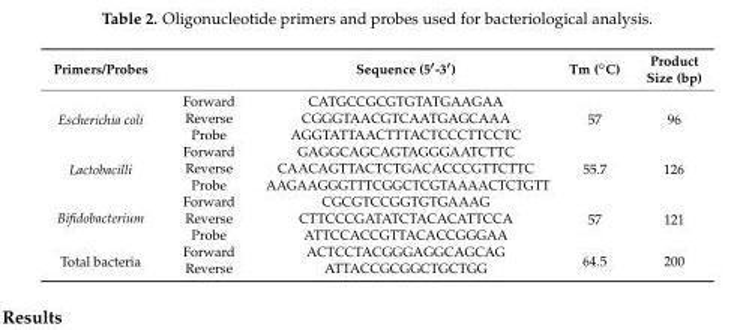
<table><thead><tr><td>Primers/Probes</td><td></td><td>Sequence (5′-3′)</td><td>Tm (◦C)</td><td>Product Size (bp)</td></tr></thead><tbody><tr><td rowspan="3">Escherichia coli</td><td>Forward</td><td>CATGCCGCGTGTATGAAGAA</td><td rowspan="3">57</td><td rowspan="3">96</td></tr><tr><td>Reverse</td><td>CGGGTAACGTCAATGAGCAAA</td></tr><tr><td>Probe</td><td>AGGTATTAACTTTACTCCCTTCCTC</td></tr><tr><td rowspan="3">Lactobacilli</td><td>Forward</td><td>GAGGCAGCAGTAGGGAATCTTC</td><td rowspan="3">55.7</td><td rowspan="3">126</td></tr><tr><td>Reverse</td><td>CAACAGTTACTCTGACACCCGTTCTTC</td></tr><tr><td>Probe</td><td>AAGAAGGGTTTCGGCTCGTAAAACTCTGTT</td></tr><tr><td rowspan="3">Bifidobacterium</td><td>Forward</td><td>CGCGTCCGGTGTGAAAG</td><td rowspan="3">57</td><td rowspan="3">121</td></tr><tr><td>Reverse</td><td>CTTCCCGATATCTACACATTCCA</td></tr><tr><td>Probe</td><td>ATTCCACCGTTACACCGGGAA</td></tr><tr><td rowspan="2">Total bacteria</td><td>Forward</td><td>ACTCCTACGGGAGGCAGCAG</td><td rowspan="2">64.5</td><td rowspan="2">200</td></tr><tr><td>Reverse</td><td>ATTACCGCGGCTGCTGG</td></tr></tbody></table>